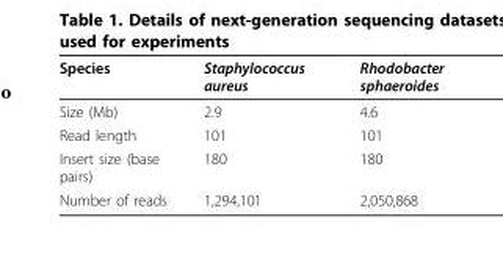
<table><thead><tr><td>Species</td><td>Staphylococcus aureus</td><td>Rhodobacter sphaeroides</td></tr></thead><tbody><tr><td>Size (Mb)</td><td>2.9</td><td>4.6</td></tr><tr><td>Read length</td><td>101</td><td>101</td></tr><tr><td>Insert size (base pairs)</td><td>180</td><td>180</td></tr><tr><td>Number of reads</td><td>1,294,101</td><td>2,050,868</td></tr></tbody></table>